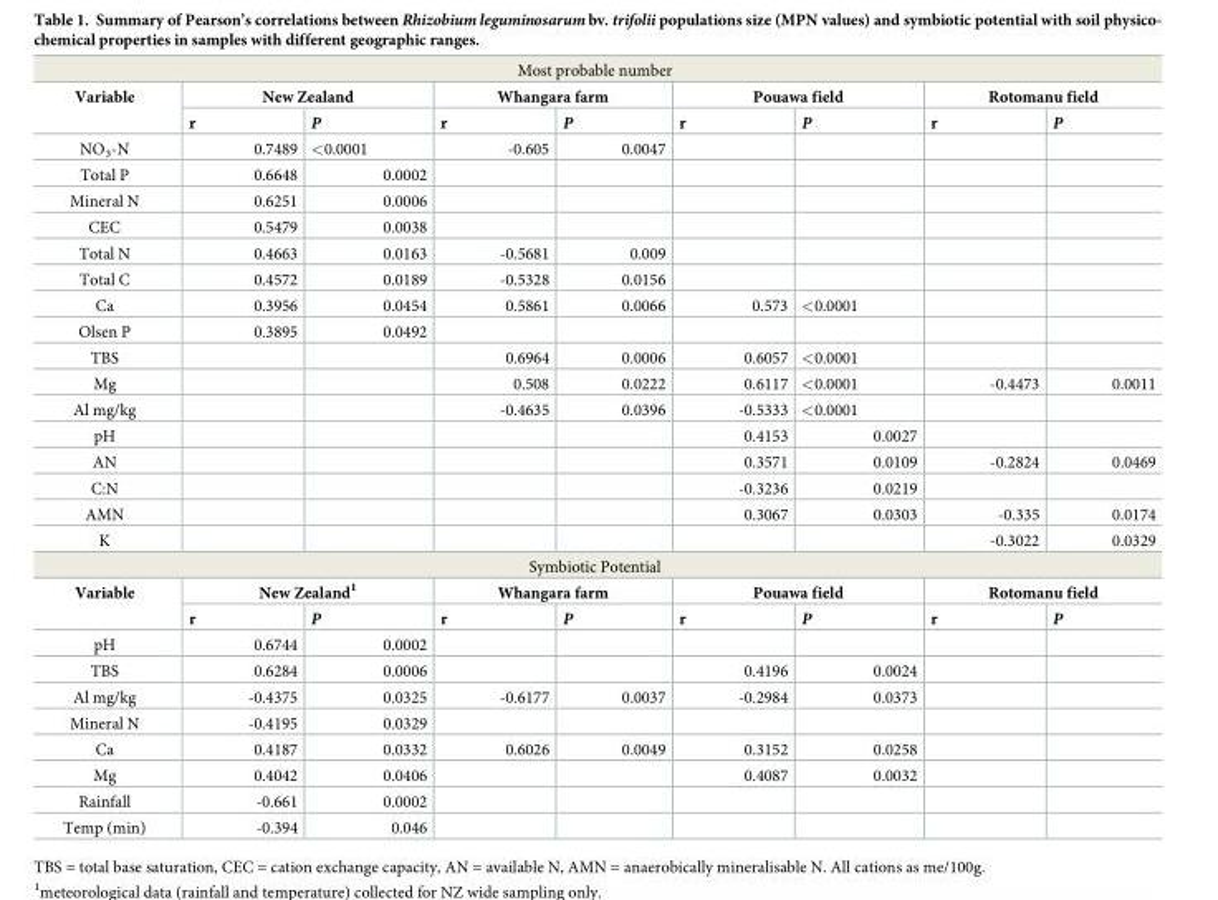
<table><tbody><tr><td colspan="9">Most probable number</td></tr><tr><td rowspan="2">Variable</td><td colspan="2">New Zealand</td><td colspan="2">Whangara farm</td><td colspan="2">Pouawa field</td><td colspan="2">Rotomanu field</td></tr><tr><td>r</td><td>P</td><td>r</td><td>P</td><td>r</td><td>P</td><td>r</td><td>P</td></tr><tr><td>NO<sub>3</sub>-N</td><td>0.7489</td><td>&lt;0.0001</td><td>-0.605</td><td>0.0047</td><td></td><td></td><td></td><td></td></tr><tr><td>Total P</td><td>0.6648</td><td>0.0002</td><td></td><td></td><td></td><td></td><td></td><td></td></tr><tr><td>Mineral N</td><td>0.6251</td><td>0.0006</td><td></td><td></td><td></td><td></td><td></td><td></td></tr><tr><td>CEC</td><td>0.5479</td><td>0.0038</td><td></td><td></td><td></td><td></td><td></td><td></td></tr><tr><td>Total N</td><td>0.4663</td><td>0.0163</td><td>-0.5681</td><td>0.009</td><td></td><td></td><td></td><td></td></tr><tr><td>Total C</td><td>0.4572</td><td>0.0189</td><td>-0.5328</td><td>0.0156</td><td></td><td></td><td></td><td></td></tr><tr><td>Ca</td><td>0.3956</td><td>0.0454</td><td>0.5861</td><td>0.0066</td><td>0.573</td><td>&lt;0.0001</td><td></td><td></td></tr><tr><td>Olsen P</td><td>0.3895</td><td>0.0492</td><td></td><td></td><td></td><td></td><td></td><td></td></tr><tr><td>TBS</td><td></td><td></td><td>0.6964</td><td>0.0006</td><td>0.6057</td><td>&lt;0.0001</td><td></td><td></td></tr><tr><td>Mg</td><td></td><td></td><td>0.508</td><td>0.0222</td><td>0.6117</td><td>&lt;0.0001</td><td>-0.4473</td><td>0.0011</td></tr><tr><td>Al mg/kg</td><td></td><td></td><td>-0.4635</td><td>0.0396</td><td>-0.5333</td><td>&lt;0.0001</td><td></td><td></td></tr><tr><td>pH</td><td></td><td></td><td></td><td></td><td>0.4153</td><td>0.0027</td><td></td><td></td></tr><tr><td>AN</td><td></td><td></td><td></td><td></td><td>0.3571</td><td>0.0109</td><td>-0.2824</td><td>0.0469</td></tr><tr><td>C:N</td><td></td><td></td><td></td><td></td><td>-0.3236</td><td>0.0219</td><td></td><td></td></tr><tr><td>AMN</td><td></td><td></td><td></td><td></td><td>0.3067</td><td>0.0303</td><td>-0.335</td><td>0.0174</td></tr><tr><td>K</td><td></td><td></td><td></td><td></td><td></td><td></td><td>-0.3022</td><td>0.0329</td></tr><tr><td colspan="9">Symbiotic Potential</td></tr><tr><td rowspan="2">Variable</td><td colspan="2">New Zealand<sup>1</sup></td><td colspan="2">Whangara farm</td><td colspan="2">Pouawa field</td><td colspan="2">Rotomanu field</td></tr><tr><td>r</td><td>P</td><td>r</td><td>P</td><td>r</td><td>P</td><td>r</td><td>P</td></tr><tr><td>pH</td><td>0.6744</td><td>0.0002</td><td></td><td></td><td></td><td></td><td></td><td></td></tr><tr><td>TBS</td><td>0.6284</td><td>0.0006</td><td></td><td></td><td>0.4196</td><td>0.0024</td><td></td><td></td></tr><tr><td>Al mg/kg</td><td>-0.4375</td><td>0.0325</td><td>-0.6177</td><td>0.0037</td><td>-0.2984</td><td>0.0373</td><td></td><td></td></tr><tr><td>Mineral N</td><td>-0.4195</td><td>0.0329</td><td></td><td></td><td></td><td></td><td></td><td></td></tr><tr><td>Ca</td><td>0.4187</td><td>0.0332</td><td>0.6026</td><td>0.0049</td><td>0.3152</td><td>0.0258</td><td></td><td></td></tr><tr><td>Mg</td><td>0.4042</td><td>0.0406</td><td></td><td></td><td>0.4087</td><td>0.0032</td><td></td><td></td></tr><tr><td>Rainfall</td><td>-0.661</td><td>0.0002</td><td></td><td></td><td></td><td></td><td></td><td></td></tr><tr><td>Temp (min)</td><td>-0.394</td><td>0.046</td><td></td><td></td><td></td><td></td><td></td><td></td></tr></tbody></table>